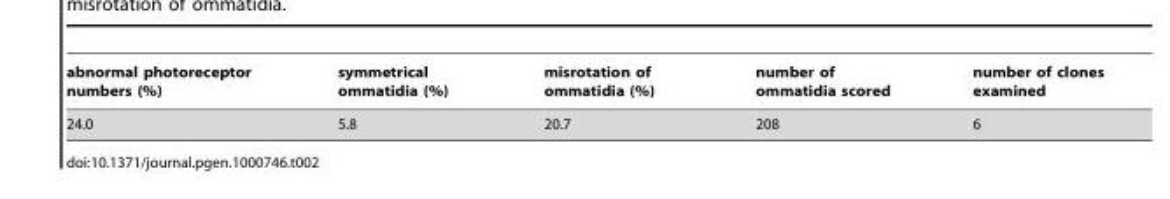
<table><thead><tr><td>abnormal photoreceptor numbers (%)</td><td>symmetrical ommatidia (%)</td><td>misrotation of ommatidia (%)</td><td>number of ommatidia scored</td><td>number of clones examined</td></tr></thead><tbody><tr><td>24.0</td><td>5.8</td><td>20.7</td><td>208</td><td>6</td></tr></tbody></table>